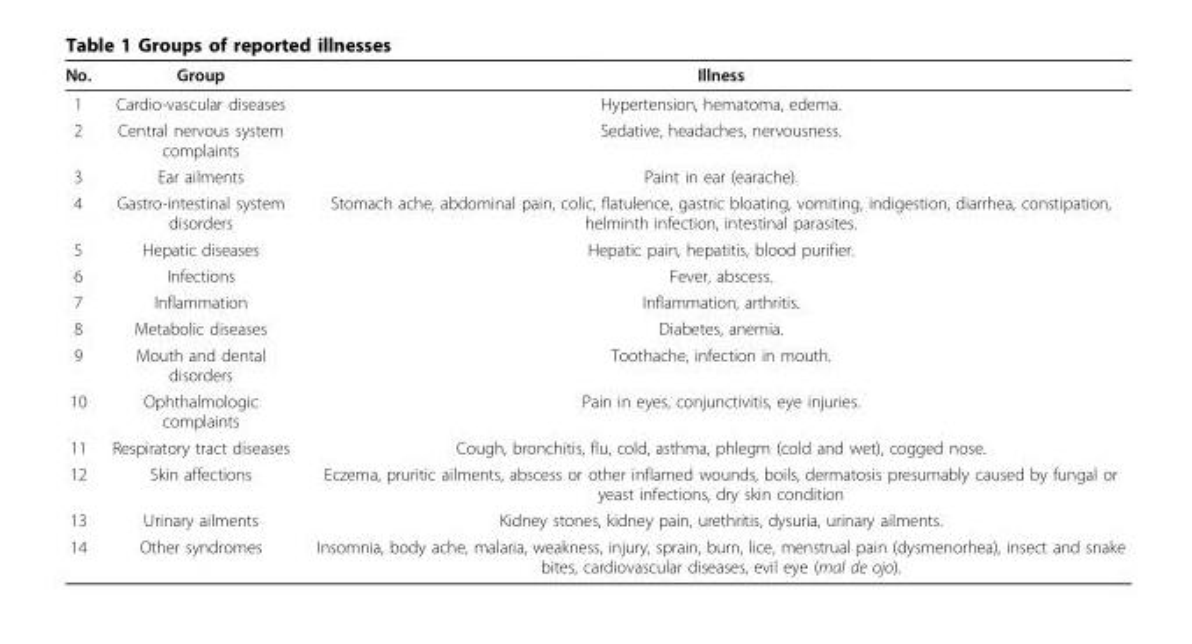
<table><thead><tr><td>No.</td><td>Group</td><td>Illness</td></tr></thead><tbody><tr><td>1</td><td>Cardio-vascular diseases</td><td>Hypertension, hematoma, edema.</td></tr><tr><td>2</td><td>Central nervous system complaints</td><td>Sedative, headaches, nervousness.</td></tr><tr><td>3</td><td>Ear ailments</td><td>Paint in ear (earache).</td></tr><tr><td>4</td><td>Gastro-intestinal system disorders</td><td>Stomach ache, abdominal pain, colic, flatulence, gastric bloating, vomiting, indigestion, diarrhea, constipation, helminth infection, intestinal parasites.</td></tr><tr><td>5</td><td>Hepatic diseases</td><td>Hepatic pain, hepatitis, blood purifier.</td></tr><tr><td>6</td><td>Infections</td><td>Fever, abscess.</td></tr><tr><td>7</td><td>Inflammation</td><td>Inflammation, arthritis.</td></tr><tr><td>8</td><td>Metabolic diseases</td><td>Diabetes, anemia.</td></tr><tr><td>9</td><td>Mouth and dental disorders</td><td>Toothache, infection in mouth.</td></tr><tr><td>10</td><td>Ophthalmologic complaints</td><td>Pain in eyes, conjunctivitis, eye injuries.</td></tr><tr><td>11</td><td>Respiratory tract diseases</td><td>Cough, bronchitis, flu, cold, asthma, phlegm (cold and wet), cogged nose.</td></tr><tr><td>12</td><td>Skin affections</td><td>Eczema, pruritic ailments, abscess or other inflamed wounds, boils, dermatosis presumably caused by fungal or yeast infections, dry skin condition</td></tr><tr><td>13</td><td>Urinary ailments</td><td>Kidney stones, kidney pain, urethritis, dysuria, urinary ailments.</td></tr><tr><td>14</td><td>Other syndromes</td><td>Insomnia, body ache, malaria, weakness, injury, sprain, burn, lice, menstrual pain (dysmenorhea), insect and snake bites, cardiovascular diseases, evil eye (mal de ojo).</td></tr></tbody></table>